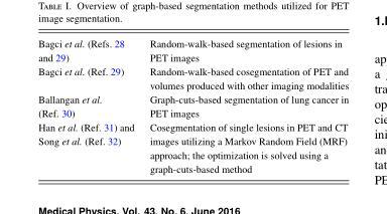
<table><tbody><tr><td>Bagci et al. (Refs. 28 and 29)</td><td>Random-walk-based segmentation of lesions in PET images</td></tr><tr><td>Bagci et al. (Ref. 29)</td><td>Random-walk-based cosegmentation of PET and volumes produced with other imaging modalities</td></tr><tr><td>Ballangan et al. (Ref. 30)</td><td>Graph-cuts-based segmentation of lung cancer in PET images</td></tr><tr><td>Han et al. (Ref. 31) and Song et al. (Ref. 32)</td><td>Cosegmentation of single lesions in PET and CT images utilizing a Markov Random Field (MRF) approach; the optimization is solved using a graph-cuts-based method</td></tr></tbody></table>